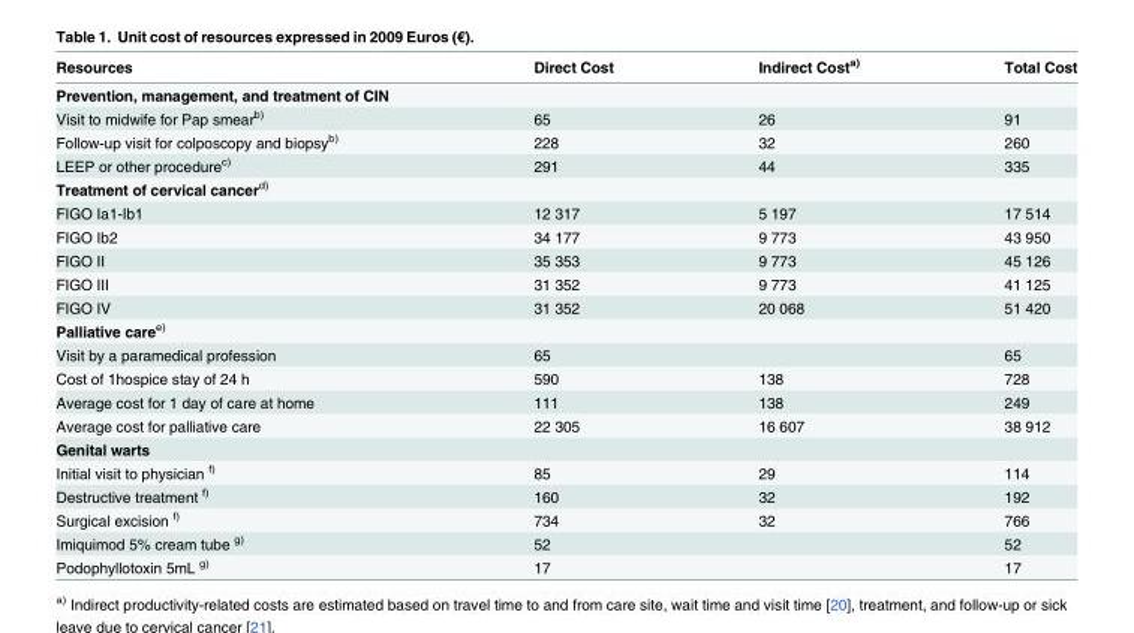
<table><thead><tr><td>Resources</td><td>Direct Cost</td><td>Indirect Cost<sup>a)</sup></td><td>Total Cost</td></tr></thead><tbody><tr><td colspan="4">Prevention, management, and treatment of CIN</td></tr><tr><td>Visit to midwife for Pap smear<sup>b)</sup></td><td>65</td><td>26</td><td>91</td></tr><tr><td>Follow-up visit for colposcopy and biopsy<sup>b)</sup></td><td>228</td><td>32</td><td>260</td></tr><tr><td>LEEP or other procedure<sup>c)</sup></td><td>291</td><td>44</td><td>335</td></tr><tr><td colspan="4">Treatment of cervical cancer<sup>d)</sup></td></tr><tr><td>FIGO Ia1-Ib1</td><td>12 317</td><td>5 197</td><td>17 514</td></tr><tr><td>FIGO Ib2</td><td>34 177</td><td>9 773</td><td>43 950</td></tr><tr><td>FIGO II</td><td>35 353</td><td>9 773</td><td>45 126</td></tr><tr><td>FIGO III</td><td>31 352</td><td>9 773</td><td>41 125</td></tr><tr><td>FIGO IV</td><td>31 352</td><td>20 068</td><td>51 420</td></tr><tr><td colspan="4">Palliative care<sup>e)</sup></td></tr><tr><td>Visit by a paramedical profession</td><td>65</td><td></td><td>65</td></tr><tr><td>Cost of 1hospice stay of 24 h</td><td>590</td><td>138</td><td>728</td></tr><tr><td>Average cost for 1 day of care at home</td><td>111</td><td>138</td><td>249</td></tr><tr><td>Average cost for palliative care</td><td>22 305</td><td>16 607</td><td>38 912</td></tr><tr><td colspan="4">Genital warts</td></tr><tr><td>Initial visit to physician <sup>f)</sup></td><td>85</td><td>29</td><td>114</td></tr><tr><td>Destructive treatment <sup>f)</sup></td><td>160</td><td>32</td><td>192</td></tr><tr><td>Surgical excision <sup>f)</sup></td><td>734</td><td>32</td><td>766</td></tr><tr><td>Imiquimod 5% cream tube <sup>g)</sup></td><td>52</td><td></td><td>52</td></tr><tr><td>Podophyllotoxin 5mL <sup>g)</sup></td><td>17</td><td></td><td>17</td></tr></tbody></table>